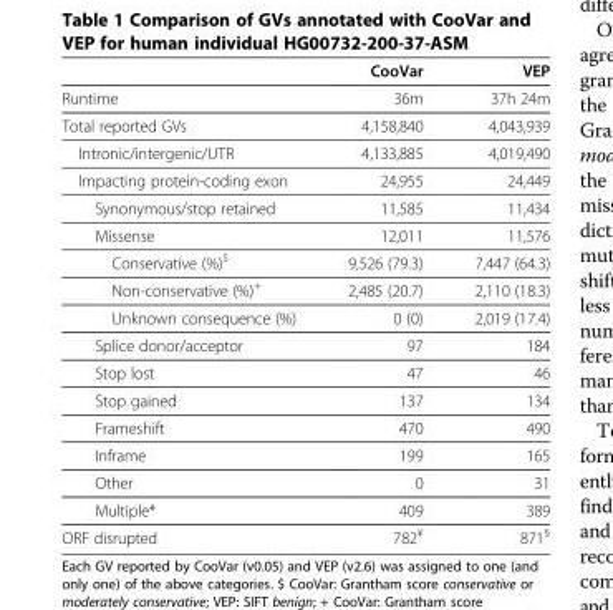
<table><thead><tr><td></td><td>CooVar</td><td>VEP</td></tr></thead><tbody><tr><td>Runtime</td><td>36m</td><td>37h 24m</td></tr><tr><td>Total reported GVs</td><td>4,158,840</td><td>4,043,939</td></tr><tr><td>Intronic/intergenic/UTR</td><td>4,133,885</td><td>4,019,490</td></tr><tr><td>Impacting protein-coding exon</td><td>24,955</td><td>24,449</td></tr><tr><td>Synonymous/stop retained</td><td>11,585</td><td>11,434</td></tr><tr><td>Missense</td><td>12,011</td><td>11,576</td></tr><tr><td>Conservative (%)<sup>$</sup></td><td>9,526 (79.3)</td><td>7,447 (64.3)</td></tr><tr><td>Non-conservative (%)<sup>+</sup></td><td>2,485 (20.7)</td><td>2,110 (18.3)</td></tr><tr><td>Unknown consequence (%)</td><td>0 (0)</td><td>2,019 (17.4)</td></tr><tr><td>Splice donor/acceptor</td><td>97</td><td>184</td></tr><tr><td>Stop lost</td><td>47</td><td>46</td></tr><tr><td>Stop gained</td><td>137</td><td>134</td></tr><tr><td>Frameshift</td><td>470</td><td>490</td></tr><tr><td>Inframe</td><td>199</td><td>165</td></tr><tr><td>Other</td><td>0</td><td>31</td></tr><tr><td>Multiple*</td><td>409</td><td>389</td></tr><tr><td>ORF disrupted</td><td>782<sup>¥</sup></td><td>871<sup>§</sup></td></tr></tbody></table>